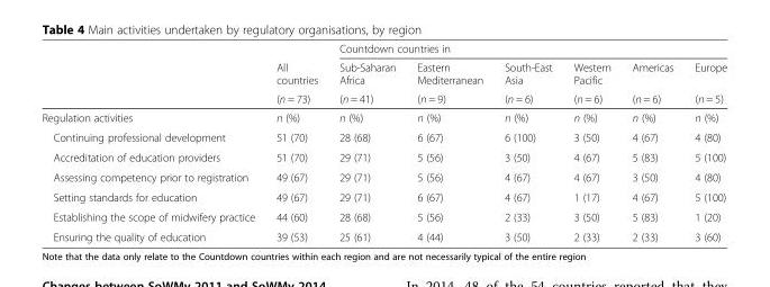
<table><thead><tr><td rowspan="3"></td><td rowspan="3">All countries (n = 73)</td><td colspan="6">Countdown countries in</td></tr><tr><td rowspan="2">Sub-Saharan Africa (n = 41)</td><td rowspan="2">Eastern Mediterranean (n = 9)</td><td rowspan="2">South-East Asia (n = 6)</td><td rowspan="2">Western Pacific (n = 6)</td><td rowspan="2">Americas (n = 6)</td><td rowspan="2">Europe (n = 5)</td></tr><tr></tr></thead><tbody><tr><td>Regulation activities</td><td>n (%)</td><td>n (%)</td><td>n (%)</td><td>n (%)</td><td>n (%)</td><td>n (%)</td><td>n (%)</td></tr><tr><td>Continuing professional development</td><td>51 (70)</td><td>28 (68)</td><td>6 (67)</td><td>6 (100)</td><td>3 (50)</td><td>4 (67)</td><td>4 (80)</td></tr><tr><td>Accreditation of education providers</td><td>51 (70)</td><td>29 (71)</td><td>5 (56)</td><td>3 (50)</td><td>4 (67)</td><td>5 (83)</td><td>5 (100)</td></tr><tr><td>Assessing competency prior to registration</td><td>49 (67)</td><td>29 (71)</td><td>5 (56)</td><td>4 (67)</td><td>4 (67)</td><td>3 (50)</td><td>4 (80)</td></tr><tr><td>Setting standards for education</td><td>49 (67)</td><td>29 (71)</td><td>6 (67)</td><td>4 (67)</td><td>1 (17)</td><td>4 (67)</td><td>5 (100)</td></tr><tr><td>Establishing the scope of midwifery practice</td><td>44 (60)</td><td>28 (68)</td><td>5 (56)</td><td>2 (33)</td><td>3 (50)</td><td>5 (83)</td><td>1 (20)</td></tr><tr><td>Ensuring the quality of education</td><td>39 (53)</td><td>25 (61)</td><td>4 (44)</td><td>3 (50)</td><td>2 (33)</td><td>2 (33)</td><td>3 (60)</td></tr></tbody></table>